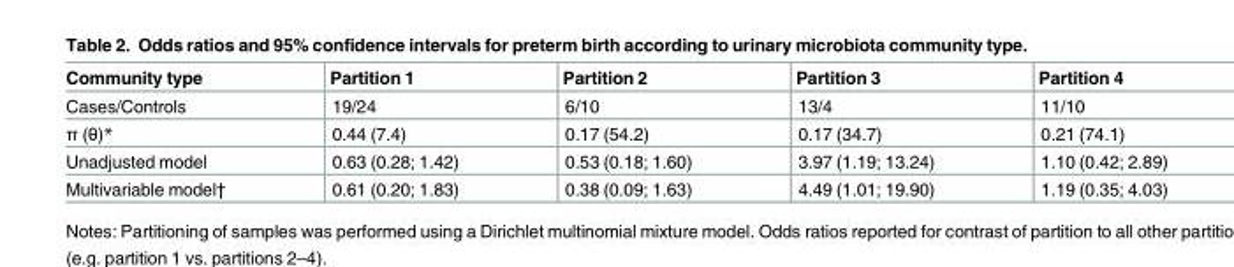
<table><thead><tr><td>Community type</td><td>Partition 1</td><td>Partition 2</td><td>Partition 3</td><td>Partition 4</td></tr></thead><tbody><tr><td>Cases/Controls</td><td>19/24</td><td>6/10</td><td>13/4</td><td>11/10</td></tr><tr><td>π (θ)*</td><td>0.44 (7.4)</td><td>0.17 (54.2)</td><td>0.17 (34.7)</td><td>0.21 (74.1)</td></tr><tr><td>Unadjusted model</td><td>0.63 (0.28; 1.42)</td><td>0.53 (0.18; 1.60)</td><td>3.97 (1.19; 13.24)</td><td>1.10 (0.42; 2.89)</td></tr><tr><td>Multivariable model†</td><td>0.61 (0.20; 1.83)</td><td>0.38 (0.09; 1.63)</td><td>4.49 (1.01; 19.90)</td><td>1.19 (0.35; 4.03)</td></tr></tbody></table>